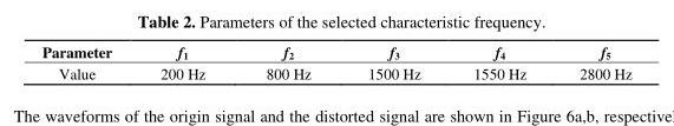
<table><thead><tr><td>Parameter</td><td>f<sub>1</sub></td><td>f<sub>2</sub></td><td>f<sub>3</sub></td><td>f<sub>4</sub></td><td>f<sub>5</sub></td></tr></thead><tbody><tr><td>Value</td><td>200 Hz</td><td>800 Hz</td><td>1500 Hz</td><td>1550 Hz</td><td>2800 Hz</td></tr></tbody></table>